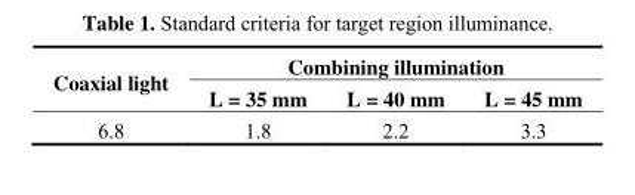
<table><thead><tr><td rowspan="2">Coaxial light</td><td colspan="3">Combining illumination</td></tr><tr><td>L = 35 mm</td><td>L = 40 mm</td><td>L = 45 mm</td></tr></thead><tbody><tr><td>6.8</td><td>1.8</td><td>2.2</td><td>3.3</td></tr></tbody></table>